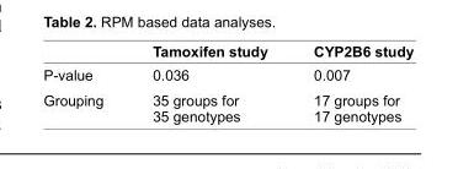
<table><thead><tr><td></td><td>Tamoxifen study</td><td>cYp2B6 study</td></tr></thead><tbody><tr><td>P-value</td><td>0.036</td><td>0.007</td></tr><tr><td>grouping</td><td>35 groups for 35 genotypes</td><td>17 groups for 17 genotypes</td></tr></tbody></table>